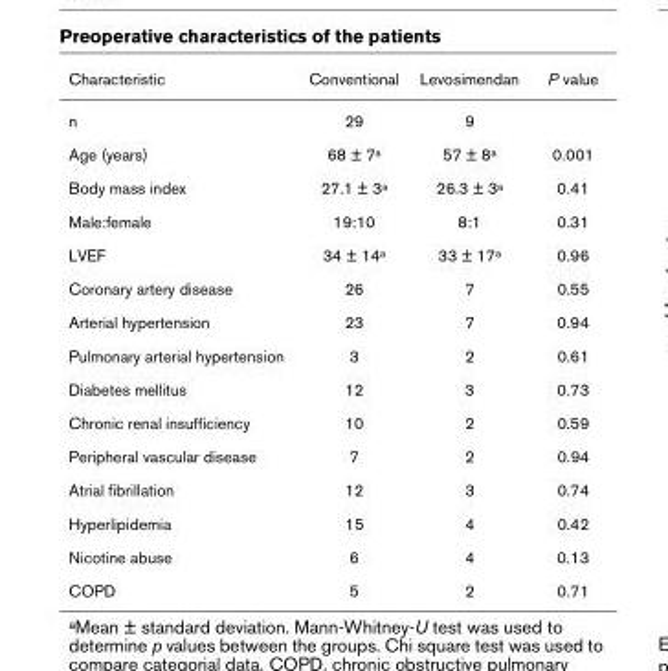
<table><thead><tr><td>Characteristic</td><td>Conventional</td><td>Levosimendan</td><td>P value</td></tr></thead><tbody><tr><td>n</td><td>29</td><td>9</td><td></td></tr><tr><td>Age (years)</td><td>68 ± 7a</td><td>57 ± 8a</td><td>0.001</td></tr><tr><td>Body mass index</td><td>27.1 ± 3a</td><td>26.3 ± 3a</td><td>0.41</td></tr><tr><td>Male:female</td><td>19:10</td><td>8:1</td><td>0.31</td></tr><tr><td>LVEF</td><td>34 ± 14a</td><td>33 ± 17a</td><td>0.96</td></tr><tr><td>Coronary artery disease</td><td>26</td><td>7</td><td>0.55</td></tr><tr><td>Arterial hypertension</td><td>23</td><td>7</td><td>0.94</td></tr><tr><td>Pulmonary arterial hypertension</td><td>3</td><td>2</td><td>0.61</td></tr><tr><td>Diabetes mellitus</td><td>12</td><td>3</td><td>0.73</td></tr><tr><td>Chronic renal insufficiency</td><td>10</td><td>2</td><td>0.59</td></tr><tr><td>Peripheral vascular disease</td><td>7</td><td>2</td><td>0.94</td></tr><tr><td>Atrial fibrillation</td><td>12</td><td>3</td><td>0.74</td></tr><tr><td>Hyperlipidemia</td><td>15</td><td>4</td><td>0.42</td></tr><tr><td>Nicotine abuse</td><td>6</td><td>4</td><td>0.13</td></tr><tr><td>COPD</td><td>5</td><td>2</td><td>0.71</td></tr></tbody></table>